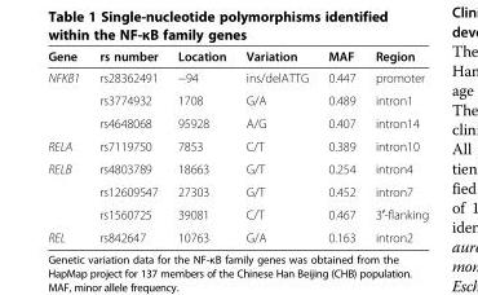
<table><thead><tr><td>Gene</td><td>rs number</td><td>Location</td><td>Variation</td><td>MAF</td><td>Region</td></tr></thead><tbody><tr><td rowspan="3">NFKB1</td><td>rs28362491</td><td>−94</td><td>ins/delATTG</td><td>0.447</td><td>promoter</td></tr><tr><td>rs3774932</td><td>1708</td><td>G/A</td><td>0.489</td><td>intron1</td></tr><tr><td>rs4648068</td><td>95928</td><td>A/G</td><td>0.407</td><td>intron14</td></tr><tr><td>RELA</td><td>rs7119750</td><td>7853</td><td>C/T</td><td>0.389</td><td>intron10</td></tr><tr><td rowspan="3">RELB</td><td>rs4803789</td><td>18663</td><td>G/T</td><td>0.254</td><td>intron4</td></tr><tr><td>rs12609547</td><td>27303</td><td>G/T</td><td>0.452</td><td>intron7</td></tr><tr><td>rs1560725</td><td>39081</td><td>C/T</td><td>0.467</td><td>3′-flanking</td></tr><tr><td>REL</td><td>rs842647</td><td>10763</td><td>G/A</td><td>0.163</td><td>intron2</td></tr></tbody></table>